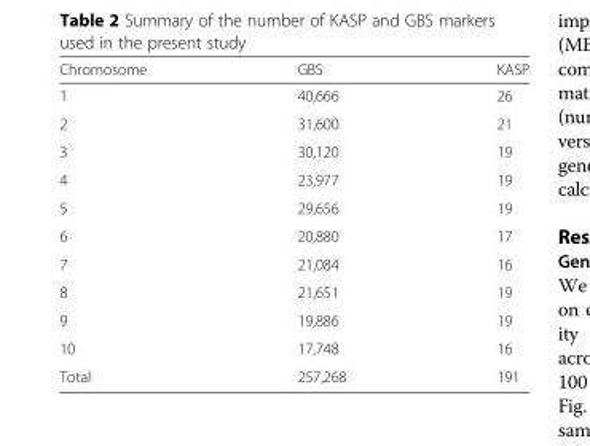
<table><thead><tr><td>Chromosome</td><td>GBS</td><td>KASP</td></tr></thead><tbody><tr><td>1</td><td>40,666</td><td>26</td></tr><tr><td>2</td><td>31,600</td><td>21</td></tr><tr><td>3</td><td>30,120</td><td>19</td></tr><tr><td>4</td><td>23,977</td><td>19</td></tr><tr><td>5</td><td>29,656</td><td>19</td></tr><tr><td>6</td><td>20,880</td><td>17</td></tr><tr><td>7</td><td>21,084</td><td>16</td></tr><tr><td>8</td><td>21,651</td><td>19</td></tr><tr><td>9</td><td>19,886</td><td>19</td></tr><tr><td>10</td><td>17,748</td><td>16</td></tr><tr><td>Total</td><td>257,268</td><td>191</td></tr></tbody></table>